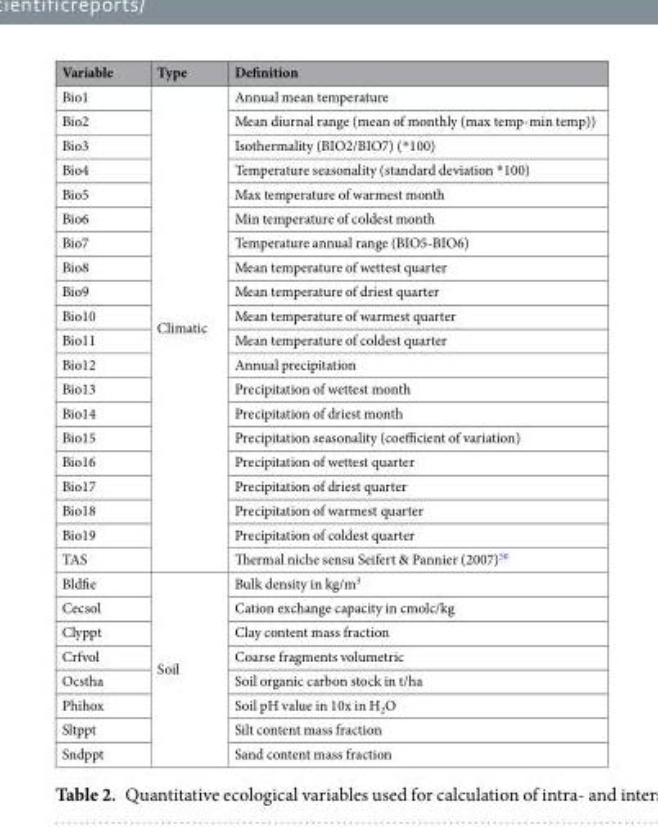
<table><thead><tr><td>Variable</td><td>Type</td><td>Definition</td></tr></thead><tbody><tr><td>Bio1</td><td rowspan="20">Climatic</td><td>Annual mean temperature</td></tr><tr><td>Bio2</td><td>Mean diurnal range (mean of monthly (max temp-min temp))</td></tr><tr><td>Bio3</td><td>Isothermality (BIO2/BIO7) (*100)</td></tr><tr><td>Bio4</td><td>Temperature seasonality (standard deviation *100)</td></tr><tr><td>Bio5</td><td>Max temperature of warmest month</td></tr><tr><td>Bio6</td><td>Min temperature of coldest month</td></tr><tr><td>Bio7</td><td>Temperature annual range (BIO5-BIO6)</td></tr><tr><td>Bio8</td><td>Mean temperature of wettest quarter</td></tr><tr><td>Bio9</td><td>Mean temperature of driest quarter</td></tr><tr><td>Bio10</td><td>Mean temperature of warmest quarter</td></tr><tr><td>Bio11</td><td>Mean temperature of coldest quarter</td></tr><tr><td>Bio12</td><td>Annual precipitation</td></tr><tr><td>Bio13</td><td>Precipitation of wettest month</td></tr><tr><td>Bio14</td><td>Precipitation of driest month</td></tr><tr><td>Bio15</td><td>Precipitation seasonality (coefficient of variation)</td></tr><tr><td>Bio16</td><td>Precipitation of wettest quarter</td></tr><tr><td>Bio17</td><td>Precipitation of driest quarter</td></tr><tr><td>Bio18</td><td>Precipitation of warmest quarter</td></tr><tr><td>Bio19</td><td>Precipitation of coldest quarter</td></tr><tr><td>TAS</td><td>Thermal niche sensu Seifert &amp; Pannier (2007)<sup>50</sup></td></tr><tr><td>Bldfie</td><td rowspan="8">Soil</td><td>Bulk density in kg/m<sup>3</sup></td></tr><tr><td>Cecsol</td><td>Cation exchange capacity in cmolc/kg</td></tr><tr><td>Clyppt</td><td>Clay content mass fraction</td></tr><tr><td>Crfvol</td><td>Coarse fragments volumetric</td></tr><tr><td>Ocstha</td><td>Soil organic carbon stock in t/ha</td></tr><tr><td>Phihox</td><td>Soil pH value in 10x in H<sub>2</sub>O</td></tr><tr><td>Sltppt</td><td>Silt content mass fraction</td></tr><tr><td>Sndppt</td><td>Sand content mass fraction</td></tr></tbody></table>